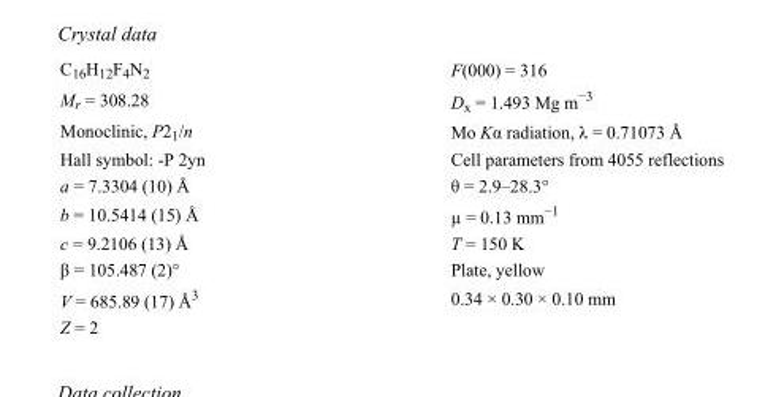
<table><tbody><tr><td>C<sub>16</sub>H<sub>12</sub>F<sub>4</sub>N<sub>2</sub></td><td>F(000) = 316</td></tr><tr><td>M<sub>r</sub> = 308.28</td><td>D<sub>x</sub> = 1.493 Mg m<sup>−3</sup></td></tr><tr><td>Monoclinic, P2<sub>1</sub>/n</td><td>Mo Kα radiation, λ = 0.71073 Å</td></tr><tr><td>Hall symbol: -P 2yn</td><td>Cell parameters from 4055 reflections</td></tr><tr><td>a = 7.3304 (10) Å</td><td>θ = 2.9–28.3°</td></tr><tr><td>b = 10.5414 (15) Å</td><td>µ = 0.13 mm<sup>−1</sup></td></tr><tr><td>c = 9.2106 (13) Å</td><td>T = 150 K</td></tr><tr><td>β = 105.487 (2)°</td><td>Plate, yellow</td></tr><tr><td>V = 685.89 (17) Å<sup>3</sup></td><td>0.34 × 0.30 × 0.10 mm</td></tr><tr><td>Z = 2</td><td></td></tr></tbody></table>